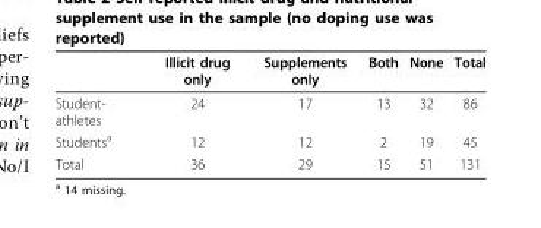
<table><thead><tr><td></td><td>Illicit drug only</td><td>Supplements only</td><td>Both</td><td>None</td><td>Total</td></tr></thead><tbody><tr><td>Student- athletes</td><td>24</td><td>17</td><td>13</td><td>32</td><td>86</td></tr><tr><td>Students<sup>a</sup></td><td>12</td><td>12</td><td>2</td><td>19</td><td>45</td></tr><tr><td>Total</td><td>36</td><td>29</td><td>15</td><td>51</td><td>131</td></tr></tbody></table>